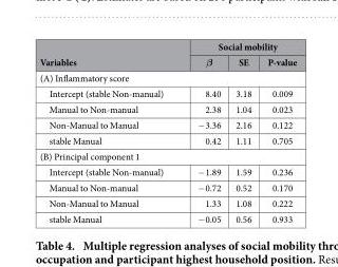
<table><thead><tr><td rowspan="2">Variables</td><td colspan="3">Social mobility</td></tr><tr><td>β</td><td>SE</td><td>P-value</td></tr></thead><tbody><tr><td colspan="4">(A) Inflammatory score</td></tr><tr><td>Intercept (stable Non-manual)</td><td>8.40</td><td>3.18</td><td>0.009</td></tr><tr><td>Manual to Non-manual</td><td>2.38</td><td>1.04</td><td>0.023</td></tr><tr><td>Non-Manual to Manual</td><td>− 3.36</td><td>2.16</td><td>0.122</td></tr><tr><td>stable Manual</td><td>0.42</td><td>1.11</td><td>0.705</td></tr><tr><td colspan="4">(B) Principal component 1</td></tr><tr><td>Intercept (stable Non-manual)</td><td>− 1.89</td><td>1.59</td><td>0.236</td></tr><tr><td>Manual to Non-manual</td><td>− 0.72</td><td>0.52</td><td>0.170</td></tr><tr><td>Non-Manual to Manual</td><td>1.33</td><td>1.08</td><td>0.222</td></tr><tr><td>stable Manual</td><td>− 0.05</td><td>0.56</td><td>0.933</td></tr></tbody></table>